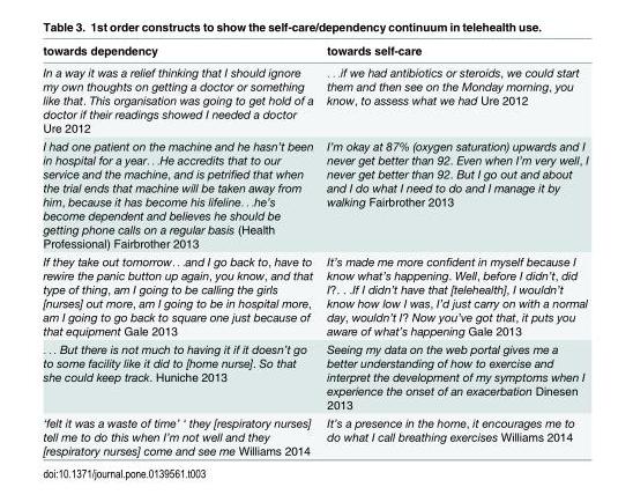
<table><thead><tr><td>towards dependency</td><td>towards self-care</td></tr></thead><tbody><tr><td>In a way it was a relief thinking that I should ignore my own thoughts on getting a doctor or something like that. This organisation was going to get hold of a doctor if their readings showed I needed a doctor Ure 2012</td><td>. . .if we had antibiotics or steroids, we could start them and then see on the Monday morning, you know, to assess what we had Ure 2012</td></tr><tr><td>I had one patient on the machine and he hasn’t been in hospital for a year. . .He accredits that to our service and the machine, and is petrified that when the trial ends that machine will be taken away from him, because it has become his lifeline. . .he’s become dependent and believes he should be getting phone calls on a regular basis (Health Professional) Fairbrother 2013</td><td>I’m okay at 87% (oxygen saturation) upwards and I never get better than 92. Even when I’m very well, I never get better than 92. But I go out and about and I do what I need to do and I manage it by walking Fairbrother 2013</td></tr><tr><td>If they take out tomorrow. . .and I go back to, have to rewire the panic button up again, you know, and that type of thing, am I going to be calling the girls [nurses] out more, am I going to be in hospital more, am I going to go back to square one just because of that equipment Gale 2013</td><td>It’s made me more confident in myself because I know what’s happening. Well, before I didn’t, did I?. . .If I didn’t have that [telehealth], I wouldn’t know how low I was, I’d just carry on with a normal day, wouldn’t I? Now you’ve got that, it puts you aware of what’s happening Gale 2013</td></tr><tr><td>. . . But there is not much to having it if it doesn’t go to some facility like it did to [home nurse]. So that she could keep track. Huniche 2013</td><td>Seeing my data on the web portal gives me a better understanding of how to exercise and interpret the development of my symptoms when I experience the onset of an exacerbation Dinesen 2013</td></tr><tr><td>‘felt it was a waste of time’ ‘ they [respiratory nurses] tell me to do this when I’m not well and they [respiratory nurses] come and see me Williams 2014</td><td>It’s a presence in the home, it encourages me to do what I call breathing exercises Williams 2014</td></tr></tbody></table>